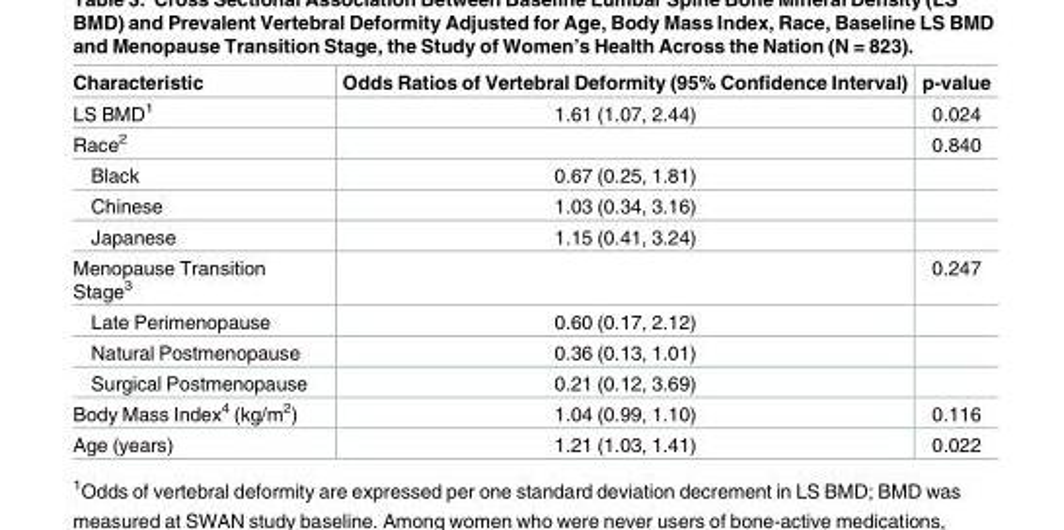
<table><thead><tr><td>Characteristic</td><td>Odds Ratios of Vertebral Deformity (95% Confidence Interval)</td><td>p-value</td></tr></thead><tbody><tr><td>LS BMD<sup>1</sup></td><td>1.61 (1.07, 2.44)</td><td>0.024</td></tr><tr><td>Race<sup>2</sup></td><td></td><td>0.840</td></tr><tr><td>Black</td><td>0.67 (0.25, 1.81)</td><td></td></tr><tr><td>Chinese</td><td>1.03 (0.34, 3.16)</td><td></td></tr><tr><td>Japanese</td><td>1.15 (0.41, 3.24)</td><td></td></tr><tr><td>Menopause Transition Stage<sup>3</sup></td><td></td><td>0.247</td></tr><tr><td>Late Perimenopause</td><td>0.60 (0.17, 2.12)</td><td></td></tr><tr><td>Natural Postmenopause</td><td>0.36 (0.13, 1.01)</td><td></td></tr><tr><td>Surgical Postmenopause</td><td>0.21 (0.12, 3.69)</td><td></td></tr><tr><td>Body Mass Index<sup>4</sup> (kg/m<sup>2</sup>)</td><td>1.04 (0.99, 1.10)</td><td>0.116</td></tr><tr><td>Age (years)</td><td>1.21 (1.03, 1.41)</td><td>0.022</td></tr></tbody></table>